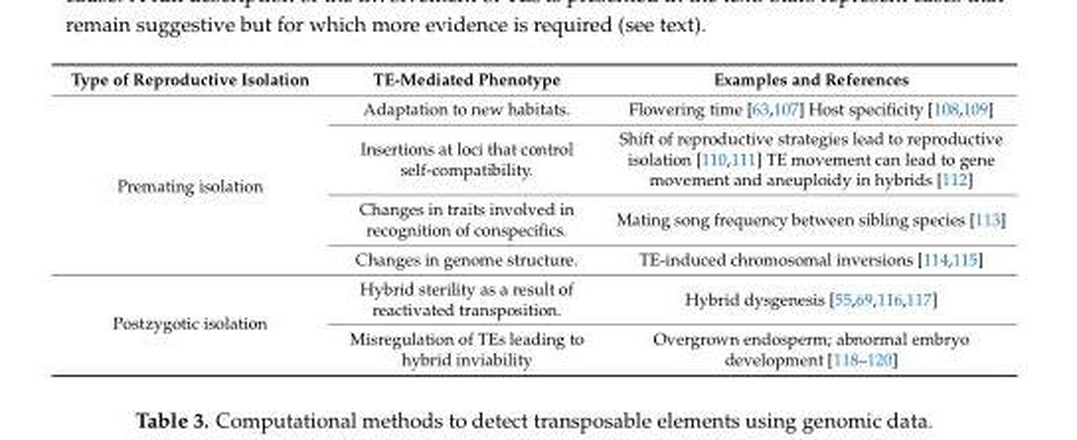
<table><thead><tr><td>Type of Reproductive Isolation</td><td>TE-Mediated Phenotype</td><td>Examples and References</td></tr></thead><tbody><tr><td rowspan="4">Premating isolation</td><td>Adaptation to new habitats.</td><td>Flowering time [63,107] Host specificity [108,109]</td></tr><tr><td>Insertions at loci that control self-compatibility.</td><td>Shift of reproductive strategies lead to reproductive isolation [110,111] TE movement can lead to gene movement and aneuploidy in hybrids [112]</td></tr><tr><td>Changes in traits involved in recognition of conspecifics.</td><td>Mating song frequency between sibling species [113]</td></tr><tr><td>Changes in genome structure.</td><td>TE-induced chromosomal inversions [114,115]</td></tr><tr><td rowspan="2">Postzygotic isolation</td><td>Hybrid sterility as a result of reactivated transposition.</td><td>Hybrid dysgenesis [55,69,116,117]</td></tr><tr><td>Misregulation of TEs leading to hybrid inviability</td><td>Overgrown endosperm; abnormal embryo development [118–120]</td></tr></tbody></table>